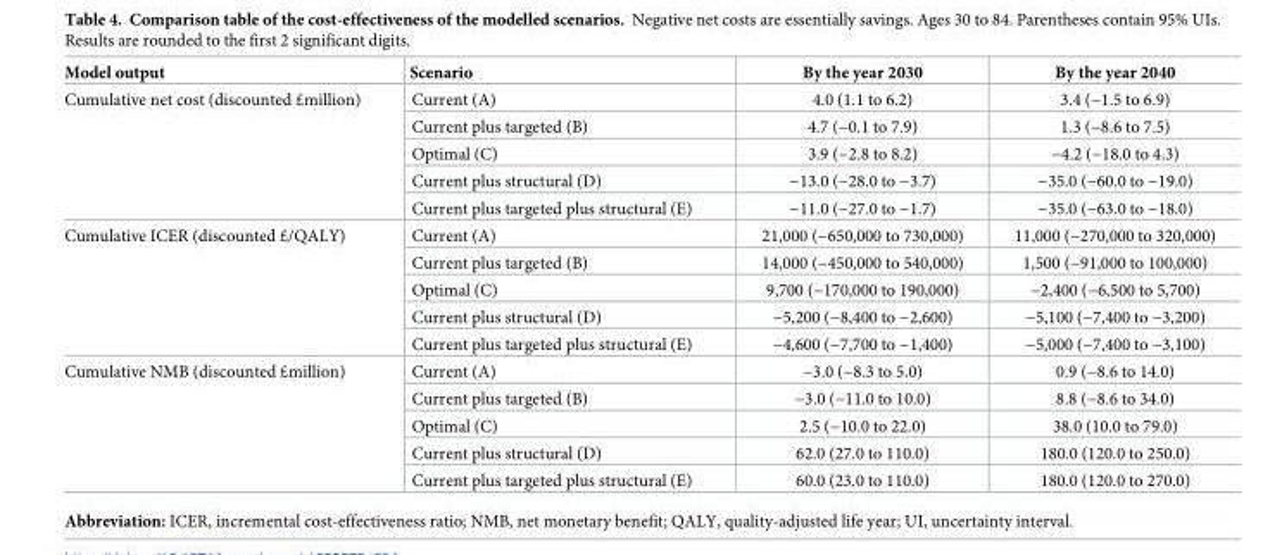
<table><thead><tr><td>Model output</td><td>Scenario</td><td>By the year 2030</td><td>By the year 2040</td></tr></thead><tbody><tr><td rowspan="5">Cumulative net cost (discounted £million)</td><td>Current (A)</td><td>4.0 (1.1 to 6.2)</td><td>3.4 (−1.5 to 6.9)</td></tr><tr><td>Current plus targeted (B)</td><td>4.7 (−0.1 to 7.9)</td><td>1.3 (−8.6 to 7.5)</td></tr><tr><td>Optimal (C)</td><td>3.9 (−2.8 to 8.2)</td><td>−4.2 (−18.0 to 4.3)</td></tr><tr><td>Current plus structural (D)</td><td>−13.0 (−28.0 to −3.7)</td><td>−35.0 (−60.0 to −19.0)</td></tr><tr><td>Current plus targeted plus structural (E)</td><td>−11.0 (−27.0 to −1.7)</td><td>−35.0 (−63.0 to −18.0)</td></tr><tr><td rowspan="5">Cumulative ICER (discounted £/QALY)</td><td>Current (A)</td><td>21,000 (−650,000 to 730,000)</td><td>11,000 (−270,000 to 320,000)</td></tr><tr><td>Current plus targeted (B)</td><td>14,000 (−450,000 to 540,000)</td><td>1,500 (−91,000 to 100,000)</td></tr><tr><td>Optimal (C)</td><td>9,700 (−170,000 to 190,000)</td><td>−2,400 (−6,500 to 5,700)</td></tr><tr><td>Current plus structural (D)</td><td>−5,200 (−8,400 to −2,600)</td><td>−5,100 (−7,400 to −3,200)</td></tr><tr><td>Current plus targeted plus structural (E)</td><td>−4,600 (−7,700 to −1,400)</td><td>−5,000 (−7,400 to −3,100)</td></tr><tr><td rowspan="5">Cumulative NMB (discounted £million)</td><td>Current (A)</td><td>−3.0 (−8.3 to 5.0)</td><td>0.9 (−8.6 to 14.0)</td></tr><tr><td>Current plus targeted (B)</td><td>−3.0 (−11.0 to 10.0)</td><td>8.8 (−8.6 to 34.0)</td></tr><tr><td>Optimal (C)</td><td>2.5 (−10.0 to 22.0)</td><td>38.0 (10.0 to 79.0)</td></tr><tr><td>Current plus structural (D)</td><td>62.0 (27.0 to 110.0)</td><td>180.0 (120.0 to 250.0)</td></tr><tr><td>Current plus targeted plus structural (E)</td><td>60.0 (23.0 to 110.0)</td><td>180.0 (120.0 to 270.0)</td></tr></tbody></table>